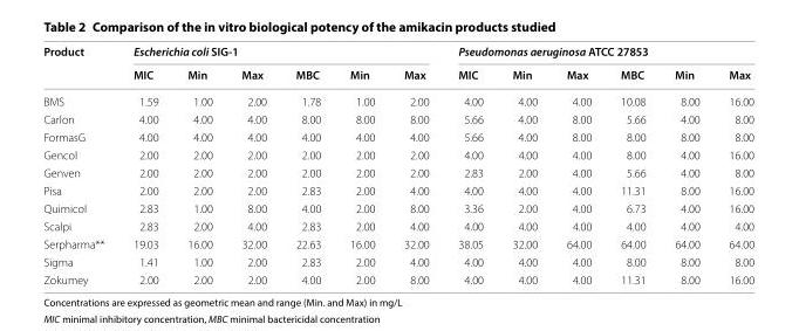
<table><thead><tr><td rowspan="2">Product</td><td colspan="6">Escherichia coli SIG-1</td><td colspan="6">Pseudomonas aeruginosa ATCC 27853</td></tr><tr><td>MIC</td><td>Min</td><td>Max</td><td>MBC</td><td>Min</td><td>Max</td><td>MIC</td><td>Min</td><td>Max</td><td>MBC</td><td>Min</td><td>Max</td></tr></thead><tbody><tr><td>BMS</td><td>1.59</td><td>1.00</td><td>2.00</td><td>1.78</td><td>1.00</td><td>2.00</td><td>4.00</td><td>4.00</td><td>4.00</td><td>10.08</td><td>8.00</td><td>16.00</td></tr><tr><td>Carlon</td><td>4.00</td><td>4.00</td><td>4.00</td><td>8.00</td><td>8.00</td><td>8.00</td><td>5.66</td><td>4.00</td><td>8.00</td><td>5.66</td><td>4.00</td><td>8.00</td></tr><tr><td>FormasG</td><td>4.00</td><td>4.00</td><td>4.00</td><td>4.00</td><td>4.00</td><td>4.00</td><td>5.66</td><td>4.00</td><td>8.00</td><td>8.00</td><td>8.00</td><td>8.00</td></tr><tr><td>Gencol</td><td>2.00</td><td>2.00</td><td>2.00</td><td>2.00</td><td>2.00</td><td>2.00</td><td>4.00</td><td>4.00</td><td>4.00</td><td>8.00</td><td>4.00</td><td>16.00</td></tr><tr><td>Genven</td><td>2.00</td><td>2.00</td><td>2.00</td><td>2.00</td><td>2.00</td><td>2.00</td><td>2.83</td><td>2.00</td><td>4.00</td><td>5.66</td><td>4.00</td><td>8.00</td></tr><tr><td>Pisa</td><td>2.00</td><td>2.00</td><td>2.00</td><td>2.83</td><td>2.00</td><td>4.00</td><td>4.00</td><td>4.00</td><td>4.00</td><td>11.31</td><td>8.00</td><td>16.00</td></tr><tr><td>Quimicol</td><td>2.83</td><td>1.00</td><td>8.00</td><td>4.00</td><td>2.00</td><td>8.00</td><td>3.36</td><td>2.00</td><td>4.00</td><td>6.73</td><td>4.00</td><td>16.00</td></tr><tr><td>Scalpi</td><td>2.83</td><td>2.00</td><td>4.00</td><td>2.83</td><td>2.00</td><td>4.00</td><td>4.00</td><td>4.00</td><td>4.00</td><td>4.00</td><td>4.00</td><td>4.00</td></tr><tr><td>Serpharma**</td><td>19.03</td><td>16.00</td><td>32.00</td><td>22.63</td><td>16.00</td><td>32.00</td><td>38.05</td><td>32.00</td><td>64.00</td><td>64.00</td><td>64.00</td><td>64.00</td></tr><tr><td>Sigma</td><td>1.41</td><td>1.00</td><td>2.00</td><td>2.83</td><td>2.00</td><td>4.00</td><td>4.00</td><td>4.00</td><td>4.00</td><td>8.00</td><td>8.00</td><td>8.00</td></tr><tr><td>Zokumey</td><td>2.00</td><td>2.00</td><td>2.00</td><td>4.00</td><td>2.00</td><td>8.00</td><td>4.00</td><td>4.00</td><td>4.00</td><td>11.31</td><td>8.00</td><td>16.00</td></tr></tbody></table>